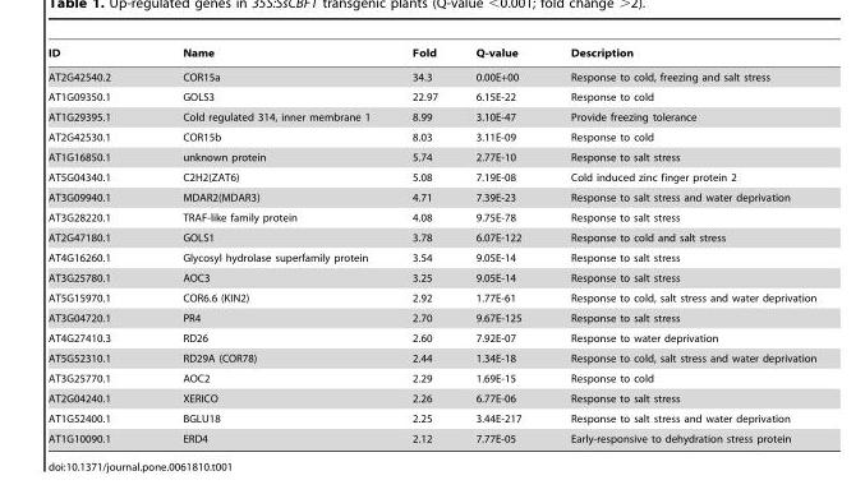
<table><thead><tr><td>ID</td><td>Name</td><td>Fold</td><td>Q-value</td><td>Description</td></tr></thead><tbody><tr><td>AT2G42540.2</td><td>COR15a</td><td>34.3</td><td>0.00E+00</td><td>Response to cold, freezing and salt stress</td></tr><tr><td>AT1G09350.1</td><td>GOLS3</td><td>22.97</td><td>6.15E-22</td><td>Response to cold</td></tr><tr><td>AT1G29395.1</td><td>Cold regulated 314, inner membrane 1</td><td>8.99</td><td>3.10E-47</td><td>Provide freezing tolerance</td></tr><tr><td>AT2G42530.1</td><td>COR15b</td><td>8.03</td><td>3.11E-09</td><td>Response to cold</td></tr><tr><td>AT1G16850.1</td><td>unknown protein</td><td>5.74</td><td>2.77E-10</td><td>Response to salt stress</td></tr><tr><td>AT5G04340.1</td><td>C2H2(ZAT6)</td><td>5.08</td><td>7.19E-08</td><td>Cold induced zinc finger protein 2</td></tr><tr><td>AT3G09940.1</td><td>MDAR2(MDAR3)</td><td>4.71</td><td>7.39E-23</td><td>Response to salt stress and water deprivation</td></tr><tr><td>AT3G28220.1</td><td>TRAF-like family protein</td><td>4.08</td><td>9.75E-78</td><td>Response to salt stress</td></tr><tr><td>AT2G47180.1</td><td>GOLS1</td><td>3.78</td><td>6.07E-122</td><td>Response to cold and salt stress</td></tr><tr><td>AT4G16260.1</td><td>Glycosyl hydrolase superfamily protein</td><td>3.54</td><td>9.05E-14</td><td>Response to salt stress</td></tr><tr><td>AT3G25780.1</td><td>AOC3</td><td>3.25</td><td>9.05E-14</td><td>Response to salt stress</td></tr><tr><td>AT5G15970.1</td><td>COR6.6 (KIN2)</td><td>2.92</td><td>1.77E-61</td><td>Response to cold, salt stress and water deprivation</td></tr><tr><td>AT3G04720.1</td><td>PR4</td><td>2.70</td><td>9.67E-125</td><td>Response to salt stress</td></tr><tr><td>AT4G27410.3</td><td>RD26</td><td>2.60</td><td>7.92E-07</td><td>Response to water deprivation</td></tr><tr><td>AT5G52310.1</td><td>RD29A (COR78)</td><td>2.44</td><td>1.34E-18</td><td>Response to cold, salt stress and water deprivation</td></tr><tr><td>AT3G25770.1</td><td>AOC2</td><td>2.29</td><td>1.69E-15</td><td>Response to cold</td></tr><tr><td>AT2G04240.1</td><td>XERICO</td><td>2.26</td><td>6.77E-06</td><td>Response to salt stress</td></tr><tr><td>AT1G52400.1</td><td>BGLU18</td><td>2.25</td><td>3.44E-217</td><td>Response to salt stress and water deprivation</td></tr><tr><td>AT1G10090.1</td><td>ERD4</td><td>2.12</td><td>7.77E-05</td><td>Early-responsive to dehydration stress protein</td></tr></tbody></table>